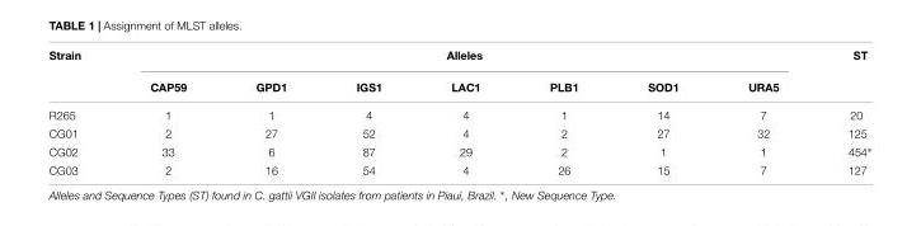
<table><thead><tr><td rowspan="2">Strain</td><td colspan="7">Alleles</td><td rowspan="2">ST</td></tr><tr><td>CAP59</td><td>GPD1</td><td>IGS1</td><td>LAC1</td><td>PLB1</td><td>SOD1</td><td>URA5</td></tr></thead><tbody><tr><td>R265</td><td>1</td><td>1</td><td>4</td><td>4</td><td>1</td><td>14</td><td>7</td><td>20</td></tr><tr><td>CG01</td><td>2</td><td>27</td><td>52</td><td>4</td><td>2</td><td>27</td><td>32</td><td>125</td></tr><tr><td>CG02</td><td>33</td><td>6</td><td>87</td><td>29</td><td>2</td><td>1</td><td>1</td><td>454∗</td></tr><tr><td>CG03</td><td>2</td><td>16</td><td>54</td><td>4</td><td>26</td><td>15</td><td>7</td><td>127</td></tr></tbody></table>